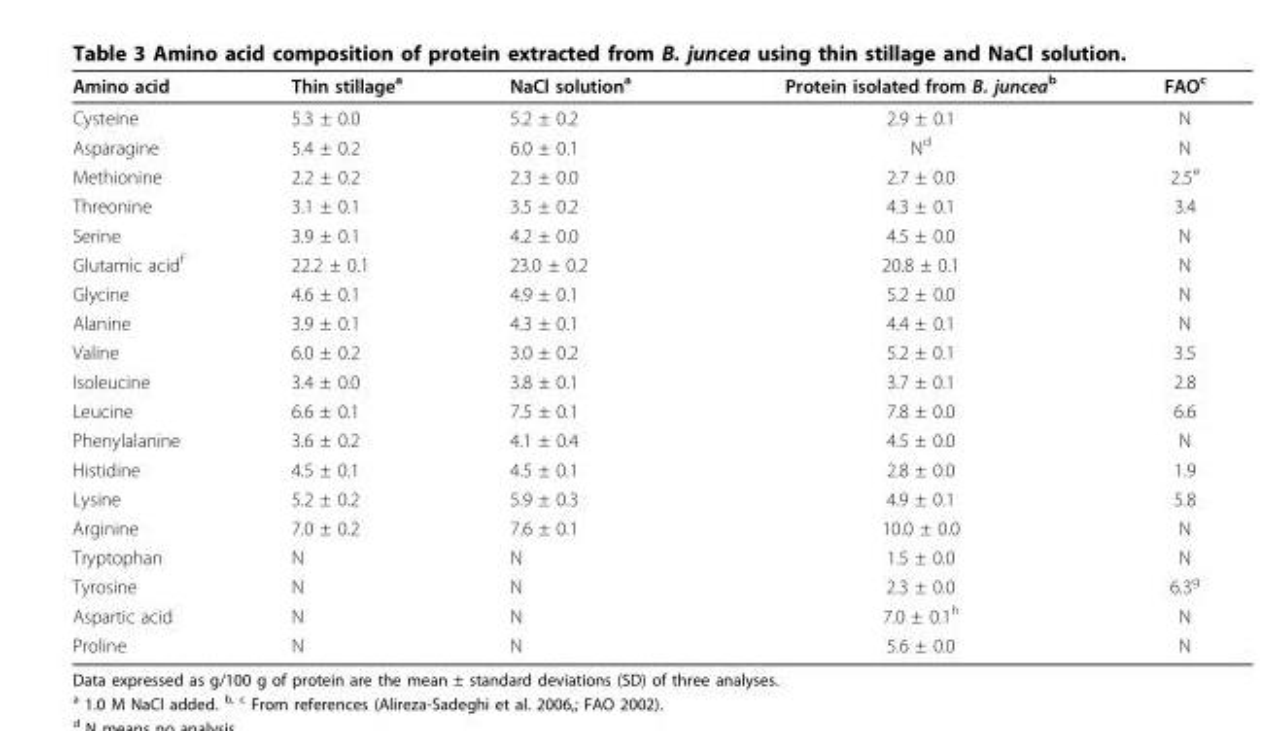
<table><thead><tr><td>Amino acid</td><td>Thin stillage<sup>a</sup></td><td>NaCl solution<sup>a</sup></td><td>Protein isolated from B. juncea<sup>b</sup></td><td>FAO<sup>c</sup></td></tr></thead><tbody><tr><td>Cysteine</td><td>5.3 ± 0.0</td><td>5.2 ± 0.2</td><td>2.9 ± 0.1</td><td>N</td></tr><tr><td>Asparagine</td><td>5.4 ± 0.2</td><td>6.0 ± 0.1</td><td>N<sup>d</sup></td><td>N</td></tr><tr><td>Methionine</td><td>2.2 ± 0.2</td><td>2.3 ± 0.0</td><td>2.7 ± 0.0</td><td>2.5<sup>e</sup></td></tr><tr><td>Threonine</td><td>3.1 ± 0.1</td><td>3.5 ± 0.2</td><td>4.3 ± 0.1</td><td>3.4</td></tr><tr><td>Serine</td><td>3.9 ± 0.1</td><td>4.2 ± 0.0</td><td>4.5 ± 0.0</td><td>N</td></tr><tr><td>Glutamic acid<sup>f</sup></td><td>22.2 ± 0.1</td><td>23.0 ± 0.2</td><td>20.8 ± 0.1</td><td>N</td></tr><tr><td>Glycine</td><td>4.6 ± 0.1</td><td>4.9 ± 0.1</td><td>5.2 ± 0.0</td><td>N</td></tr><tr><td>Alanine</td><td>3.9 ± 0.1</td><td>4.3 ± 0.1</td><td>4.4 ± 0.1</td><td>N</td></tr><tr><td>Valine</td><td>6.0 ± 0.2</td><td>3.0 ± 0.2</td><td>5.2 ± 0.1</td><td>3.5</td></tr><tr><td>Isoleucine</td><td>3.4 ± 0.0</td><td>3.8 ± 0.1</td><td>3.7 ± 0.1</td><td>2.8</td></tr><tr><td>Leucine</td><td>6.6 ± 0.1</td><td>7.5 ± 0.1</td><td>7.8 ± 0.0</td><td>6.6</td></tr><tr><td>Phenylalanine</td><td>3.6 ± 0.2</td><td>4.1 ± 0.4</td><td>4.5 ± 0.0</td><td>N</td></tr><tr><td>Histidine</td><td>4.5 ± 0.1</td><td>4.5 ± 0.1</td><td>2.8 ± 0.0</td><td>1.9</td></tr><tr><td>Lysine</td><td>5.2 ± 0.2</td><td>5.9 ± 0.3</td><td>4.9 ± 0.1</td><td>5.8</td></tr><tr><td>Arginine</td><td>7.0 ± 0.2</td><td>7.6 ± 0.1</td><td>10.0 ± 0.0</td><td>N</td></tr><tr><td>Tryptophan</td><td>N</td><td>N</td><td>1.5 ± 0.0</td><td>N</td></tr><tr><td>Tyrosine</td><td>N</td><td>N</td><td>2.3 ± 0.0</td><td>6.3<sup>g</sup></td></tr><tr><td>Aspartic acid</td><td>N</td><td>N</td><td>7.0 ± 0.1<sup>h</sup></td><td>N</td></tr><tr><td>Proline</td><td>N</td><td>N</td><td>5.6 ± 0.0</td><td>N</td></tr></tbody></table>